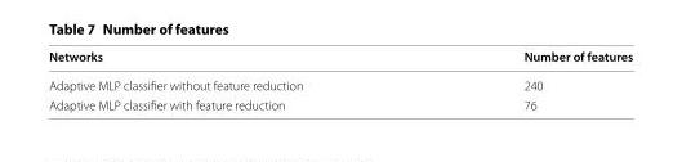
<table><thead><tr><td>Networks</td><td>Number of features</td></tr></thead><tbody><tr><td>Adaptive MLP classifier without feature reduction</td><td>240</td></tr><tr><td>Adaptive MLP classifier with feature reduction</td><td>76</td></tr></tbody></table>